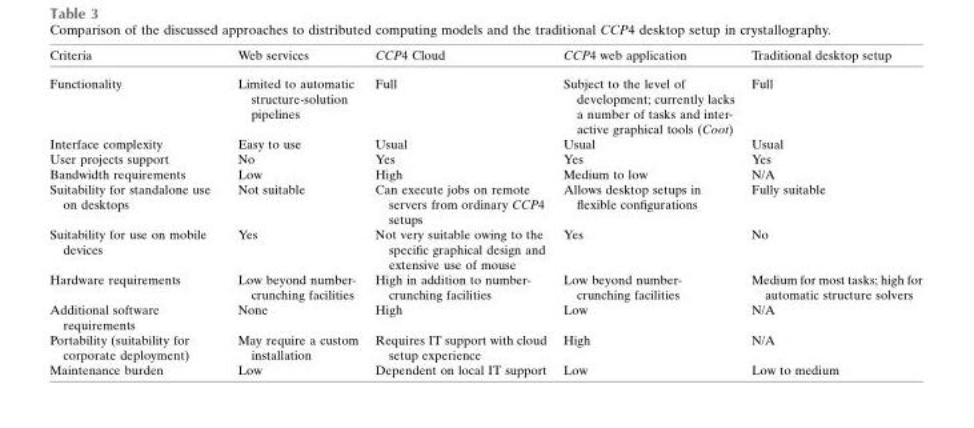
<table><thead><tr><td>Criteria</td><td>Web services</td><td>CCP4 Cloud</td><td>CCP4 web application</td><td>Traditional desktop setup</td></tr></thead><tbody><tr><td>Functionality</td><td>Limited to automatic structure-solution pipelines</td><td>Full</td><td>Subject to the level of development; currently lacks a number of tasks and inter- active graphical tools (Coot)</td><td>Full</td></tr><tr><td>Interface complexity</td><td>Easy to use</td><td>Usual</td><td>Usual</td><td>Usual</td></tr><tr><td>User projects support</td><td>No</td><td>Yes</td><td>Yes</td><td>Yes</td></tr><tr><td>Bandwidth requirements</td><td>Low</td><td>High</td><td>Medium to low</td><td>N/A</td></tr><tr><td>Suitability for standalone use on desktops</td><td>Not suitable</td><td>Can execute jobs on remote servers from ordinary CCP4 setups</td><td>Allows desktop setups in flexible configurations</td><td>Fully suitable</td></tr><tr><td>Suitability for use on mobile devices</td><td>Yes</td><td>Not very suitable owing to the specific graphical design and extensive use of mouse</td><td>Yes</td><td>No</td></tr><tr><td>Hardware requirements</td><td>Low beyond number- crunching facilities</td><td>High in addition to number- crunching facilities</td><td>Low beyond number- crunching facilities</td><td>Medium for most tasks; high for automatic structure solvers</td></tr><tr><td>Additional software requirements</td><td>None</td><td>High</td><td>Low</td><td>N/A</td></tr><tr><td>Portability (suitability for corporate deployment)</td><td>May require a custom installation</td><td>Requires IT support with cloud setup experience</td><td>High</td><td>N/A</td></tr><tr><td>Maintenance burden</td><td>Low</td><td>Dependent on local IT support</td><td>Low</td><td>Low to medium</td></tr></tbody></table>